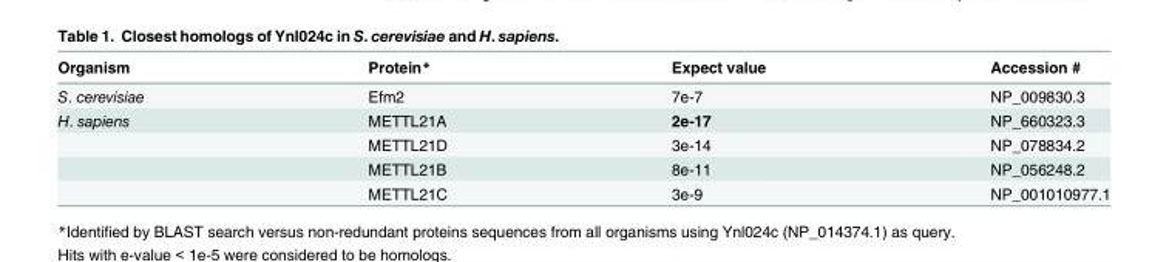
<table><thead><tr><td>Organism</td><td>Protein*</td><td>Expect value</td><td>Accession #</td></tr></thead><tbody><tr><td>S. cerevisiae</td><td>Efm2</td><td>7e-7</td><td>NP_009830.3</td></tr><tr><td rowspan="4">H. sapiens</td><td>METTL21A</td><td>2e-17</td><td>NP_660323.3</td></tr><tr><td>METTL21D</td><td>3e-14</td><td>NP_078834.2</td></tr><tr><td>METTL21B</td><td>8e-11</td><td>NP_056248.2</td></tr><tr><td>METTL21C</td><td>3e-9</td><td>NP_001010977.1</td></tr></tbody></table>